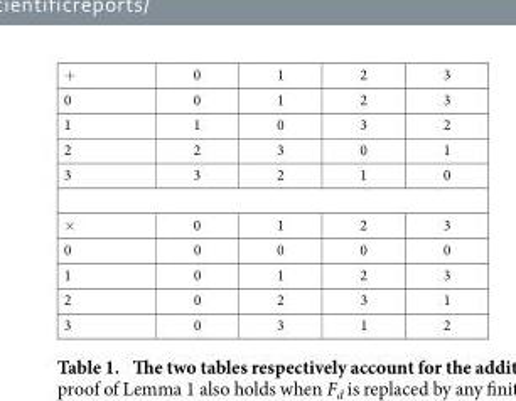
<table><tbody><tr><td>+</td><td>0</td><td>1</td><td>2</td><td>3</td></tr><tr><td>0</td><td>0</td><td>1</td><td>2</td><td>3</td></tr><tr><td>1</td><td>1</td><td>0</td><td>3</td><td>2</td></tr><tr><td>2</td><td>2</td><td>3</td><td>0</td><td>1</td></tr><tr><td>3</td><td>3</td><td>2</td><td>1</td><td>0</td></tr><tr><td>×</td><td>0</td><td>1</td><td>2</td><td>3</td></tr><tr><td>0</td><td>0</td><td>0</td><td>0</td><td>0</td></tr><tr><td>1</td><td>0</td><td>1</td><td>2</td><td>3</td></tr><tr><td>2</td><td>0</td><td>2</td><td>3</td><td>1</td></tr><tr><td>3</td><td>0</td><td>3</td><td>1</td><td>2</td></tr></tbody></table>